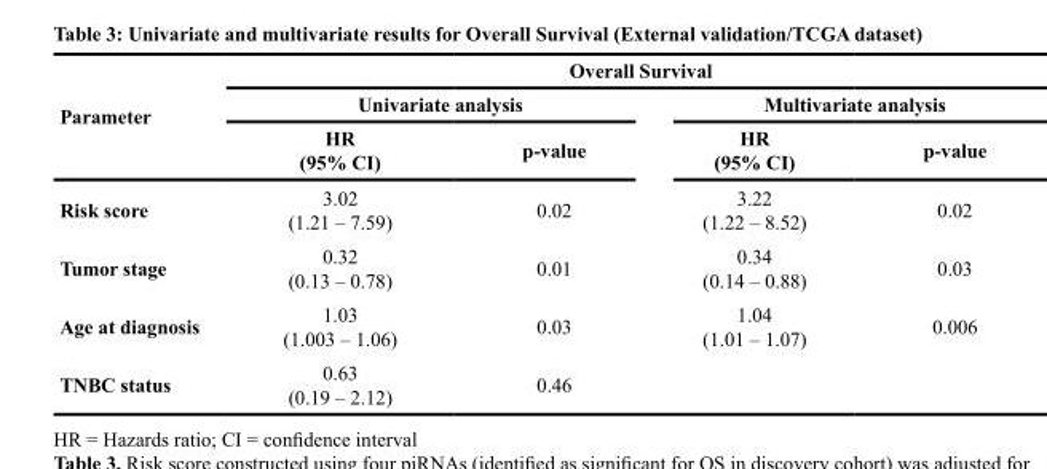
<table><thead><tr><td rowspan="3">Parameter</td><td colspan="4">Overall Survival</td></tr><tr><td colspan="2">Univariate analysis</td><td colspan="2">Multivariate analysis</td></tr><tr><td>HR (95% CI)</td><td>p-value</td><td>HR (95% CI)</td><td>p-value</td></tr></thead><tbody><tr><td>Risk score</td><td>3.02 (1.21 – 7.59)</td><td>0.02</td><td>3.22 (1.22 – 8.52)</td><td>0.02</td></tr><tr><td>Tumor stage</td><td>0.32 (0.13 – 0.78)</td><td>0.01</td><td>0.34 (0.14 – 0.88)</td><td>0.03</td></tr><tr><td>Age at diagnosis</td><td>1.03 (1.003 – 1.06)</td><td>0.03</td><td>1.04 (1.01 – 1.07)</td><td>0.006</td></tr><tr><td>TNBC status</td><td>0.63 (0.19 – 2.12)</td><td>0.46</td><td></td><td></td></tr></tbody></table>